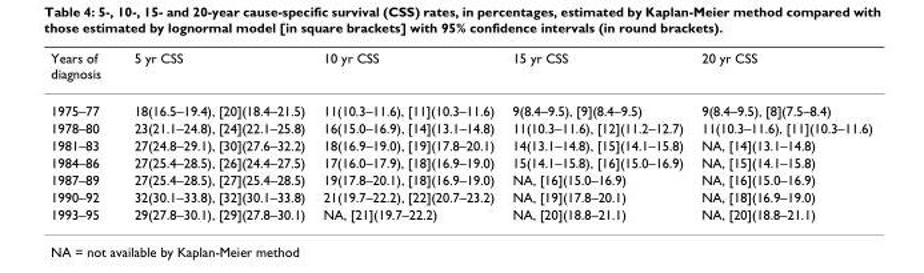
<table><thead><tr><td>Years of diagnosis</td><td>5 yr CSS</td><td>10 yr CSS</td><td>15 yr CSS</td><td>20 yr CSS</td></tr></thead><tbody><tr><td>1975–77</td><td>18(16.5–19.4), [20](18.4–21.5)</td><td>11(10.3–11.6), [11](10.3–11.6)</td><td>9(8.4–9.5), [9](8.4–9.5)</td><td>9(8.4–9.5), [8](7.5–8.4)</td></tr><tr><td>1978–80</td><td>23(21.1–24.8), [24](22.1–25.8)</td><td>16(15.0–16.9), [14](13.1–14.8)</td><td>11(10.3–11.6), [12](11.2–12.7)</td><td>11(10.3–11.6), [11](10.3–11.6)</td></tr><tr><td>1981–83</td><td>27(24.8–29.1), [30](27.6–32.2)</td><td>18(16.9–19.0), [19](17.8–20.1)</td><td>14(13.1–14.8), [15](14.1–15.8)</td><td>NA, [14](13.1–14.8)</td></tr><tr><td>1984–86</td><td>27(25.4–28.5), [26](24.4–27.5)</td><td>17(16.0–17.9), [18](16.9–19.0)</td><td>15(14.1–15.8), [16](15.0–16.9)</td><td>NA, [15](14.1–15.8)</td></tr><tr><td>1987–89</td><td>27(25.4–28.5), [27](25.4–28.5)</td><td>19(17.8–20.1), [18](16.9–19.0)</td><td>NA, [16](15.0–16.9)</td><td>NA, [16](15.0–16.9)</td></tr><tr><td>1990–92</td><td>32(30.1–33.8), [32](30.1–33.8)</td><td>21(19.7–22.2), [22](20.7–23.2)</td><td>NA, [19](17.8–20.1)</td><td>NA, [18](16.9–19.0)</td></tr><tr><td>1993–95</td><td>29(27.8–30.1), [29](27.8–30.1)</td><td>NA, [21](19.7–22.2)</td><td>NA, [20](18.8–21.1)</td><td>NA, [20](18.8–21.1)</td></tr></tbody></table>